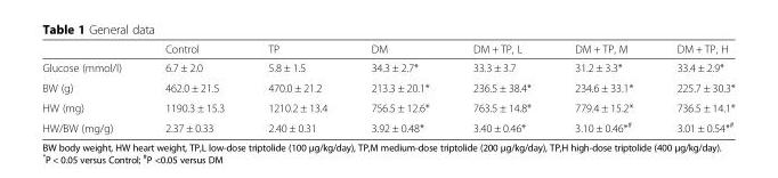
<table><thead><tr><td></td><td>Control</td><td>TP</td><td>DM</td><td>DM + TP, L</td><td>DM + TP, M</td><td>DM + TP, H</td></tr></thead><tbody><tr><td>Glucose (mmol/l)</td><td>6.7 ± 2.0</td><td>5.8 ± 1.5</td><td>34.3 ± 2.7*</td><td>33.3 ± 3.7</td><td>31.2 ± 3.3*</td><td>33.4 ± 2.9*</td></tr><tr><td>BW (g)</td><td>462.0 ± 21.5</td><td>470.0 ± 21.2</td><td>213.3 ± 20.1*</td><td>236.5 ± 38.4*</td><td>234.6 ± 33.1*</td><td>225.7 ± 30.3*</td></tr><tr><td>HW (mg)</td><td>1190.3 ± 15.3</td><td>1210.2 ± 13.4</td><td>756.5 ± 12.6*</td><td>763.5 ± 14.8*</td><td>779.4 ± 15.2*</td><td>736.5 ± 14.1*</td></tr><tr><td>HW/BW (mg/g)</td><td>2.37 ± 0.33</td><td>2.40 ± 0.31</td><td>3.92 ± 0.48*</td><td>3.40 ± 0.46*</td><td>3.10 ± 0.46*<sup>#</sup></td><td>3.01 ± 0.54*<sup>#</sup></td></tr></tbody></table>